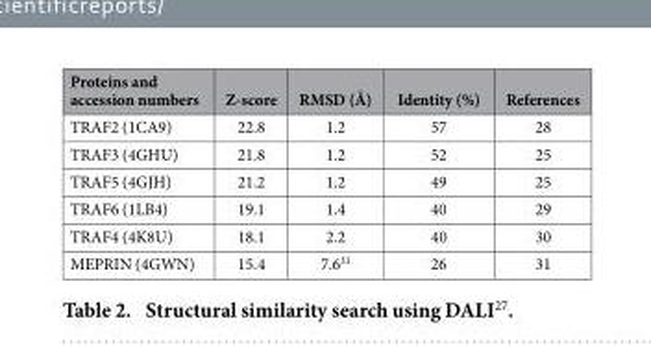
<table><thead><tr><td>Proteins and accession numbers</td><td>Z-score</td><td>RMSD (Å)</td><td>Identity (%)</td><td>References</td></tr></thead><tbody><tr><td>TRAF2 (1CA9)</td><td>22.8</td><td>1.2</td><td>57</td><td>28</td></tr><tr><td>TRAF3 (4GHU)</td><td>21.8</td><td>1.2</td><td>52</td><td>25</td></tr><tr><td>TRAF5 (4GJH)</td><td>21.2</td><td>1.2</td><td>49</td><td>25</td></tr><tr><td>TRAF6 (1LB4)</td><td>19.1</td><td>1.4</td><td>40</td><td>29</td></tr><tr><td>TRAF4 (4K8U)</td><td>18.1</td><td>2.2</td><td>40</td><td>30</td></tr><tr><td>MEPRIN (4GWN)</td><td>15.4</td><td>7.631</td><td>26</td><td>31</td></tr></tbody></table>